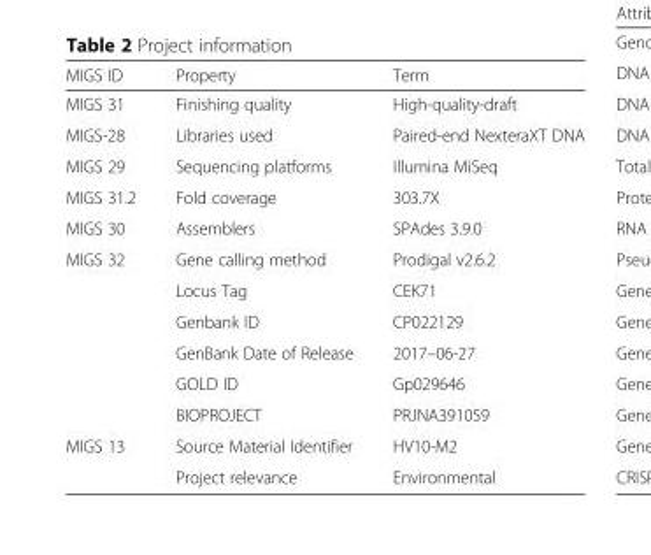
<table><thead><tr><td>MIGS ID</td><td>Property</td><td>Term</td></tr></thead><tbody><tr><td>MIGS 31</td><td>Finishing quality</td><td>High-quality-draft</td></tr><tr><td>MIGS-28</td><td>Libraries used</td><td>Paired-end NexteraXT DNA</td></tr><tr><td>MIGS 29</td><td>Sequencing platforms</td><td>Illumina MiSeq</td></tr><tr><td>MIGS 31.2</td><td>Fold coverage</td><td>303.7X</td></tr><tr><td>MIGS 30</td><td>Assemblers</td><td>SPAdes 3.9.0</td></tr><tr><td rowspan="6">MIGS 32</td><td>Gene calling method</td><td>Prodigal v2.6.2</td></tr><tr><td>Locus Tag</td><td>CEK71</td></tr><tr><td>Genbank ID</td><td>CP022129</td></tr><tr><td>GenBank Date of Release</td><td>2017–06-27</td></tr><tr><td>GOLD ID</td><td>Gp029646</td></tr><tr><td>BIOPROJECT</td><td>PRJNA391059</td></tr><tr><td rowspan="2">MIGS 13</td><td>Source Material Identifier</td><td>HV10-M2</td></tr><tr><td>Project relevance</td><td>Environmental</td></tr></tbody></table>